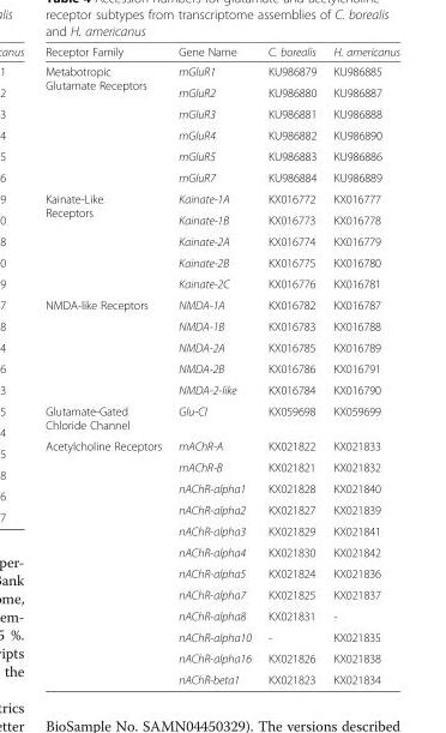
<table><thead><tr><td>Receptor Family</td><td>Gene Name</td><td>C. borealis</td><td>H. americanus</td></tr></thead><tbody><tr><td rowspan="6">Metabotropic Glutamate Receptors</td><td>mGluR1</td><td>KU986879</td><td>KU986885</td></tr><tr><td>mGluR2</td><td>KU986880</td><td>KU986887</td></tr><tr><td>mGluR3</td><td>KU986881</td><td>KU986888</td></tr><tr><td>mGluR4</td><td>KU986882</td><td>KU986890</td></tr><tr><td>mGluR5</td><td>KU986883</td><td>KU986886</td></tr><tr><td>mGluR7</td><td>KU986884</td><td>KU986889</td></tr><tr><td rowspan="5">Kainate-Like Receptors</td><td>Kainate-1A</td><td>KX016772</td><td>KX016777</td></tr><tr><td>Kainate-1B</td><td>KX016773</td><td>KX016778</td></tr><tr><td>Kainate-2A</td><td>KX016774</td><td>KX016779</td></tr><tr><td>Kainate-2B</td><td>KX016775</td><td>KX016780</td></tr><tr><td>Kainate-2C</td><td>KX016776</td><td>KX016781</td></tr><tr><td rowspan="5">NMDA-like Receptors</td><td>NMDA-1A</td><td>KX016782</td><td>KX016787</td></tr><tr><td>NMDA-1B</td><td>KX016783</td><td>KX016788</td></tr><tr><td>NMDA-2A</td><td>KX016785</td><td>KX016789</td></tr><tr><td>NMDA-2B</td><td>KX016786</td><td>KX016791</td></tr><tr><td>NMDA-2-like</td><td>KX016784</td><td>KX016790</td></tr><tr><td>Glutamate-Gated Chloride Channel</td><td>Glu-Cl</td><td>KX059698</td><td>KX059699</td></tr><tr><td rowspan="12">Acetylcholine Receptors</td><td>mAChR-A</td><td>KX021822</td><td>KX021833</td></tr><tr><td>mAChR-B</td><td>KX021821</td><td>KX021832</td></tr><tr><td>nAChR-alpha1</td><td>KX021828</td><td>KX021840</td></tr><tr><td>nAChR-alpha2</td><td>KX021827</td><td>KX021839</td></tr><tr><td>nAChR-alpha3</td><td>KX021829</td><td>KX021841</td></tr><tr><td>nAChR-alpha4</td><td>KX021830</td><td>KX021842</td></tr><tr><td>nAChR-alpha5</td><td>KX021824</td><td>KX021836</td></tr><tr><td>nAChR-alpha7</td><td>KX021825</td><td>KX021837</td></tr><tr><td>nAChR-alpha8</td><td>KX021831</td><td>-</td></tr><tr><td>nAChR-alpha10</td><td>-</td><td>KX021835</td></tr><tr><td>nAChR-alpha16</td><td>KX021826</td><td>KX021838</td></tr><tr><td>nAChR-beta1</td><td>KX021823</td><td>KX021834</td></tr></tbody></table>